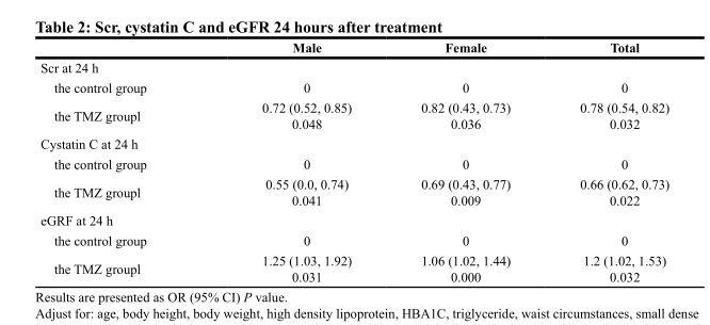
<table><thead><tr><td></td><td>Male</td><td>Female</td><td>Total</td></tr></thead><tbody><tr><td colspan="4">Scr at 24 h</td></tr><tr><td>the control group</td><td>0</td><td>0</td><td>0</td></tr><tr><td>the TMZ groupl</td><td>0.72 (0.52, 0.85) 0.048</td><td>0.82 (0.43, 0.73) 0.036</td><td>0.78 (0.54, 0.82) 0.032</td></tr><tr><td colspan="4">Cystatin C at 24 h</td></tr><tr><td>the control group</td><td>0</td><td>0</td><td>0</td></tr><tr><td>the TMZ groupl</td><td>0.55 (0.0, 0.74) 0.041</td><td>0.69 (0.43, 0.77) 0.009</td><td>0.66 (0.62, 0.73) 0.022</td></tr><tr><td colspan="4">eGRF at 24 h</td></tr><tr><td>the control group</td><td>0</td><td>0</td><td>0</td></tr><tr><td>the TMZ groupl</td><td>1.25 (1.03, 1.92) 0.031</td><td>1.06 (1.02, 1.44) 0.000</td><td>1.2 (1.02, 1.53) 0.032</td></tr></tbody></table>